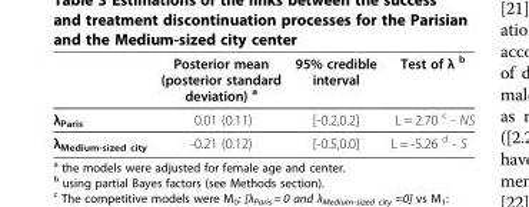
<table><thead><tr><td></td><td>Posterior mean (posterior standard deviation) <sup>a</sup></td><td>95% credible interval</td><td>Test of λ <sup>b</sup></td></tr></thead><tbody><tr><td>λ<sub>Paris</sub></td><td>0.01 (0.11)</td><td>[-0.2,0.2]</td><td>L = 2.70 <sup>c</sup> - NS</td></tr><tr><td>λ<sub>Medium-sized city</sub></td><td>-0.21 (0.12)</td><td>[-0.5,0.0]</td><td>L = -5.26 <sup>d</sup> - S</td></tr></tbody></table>